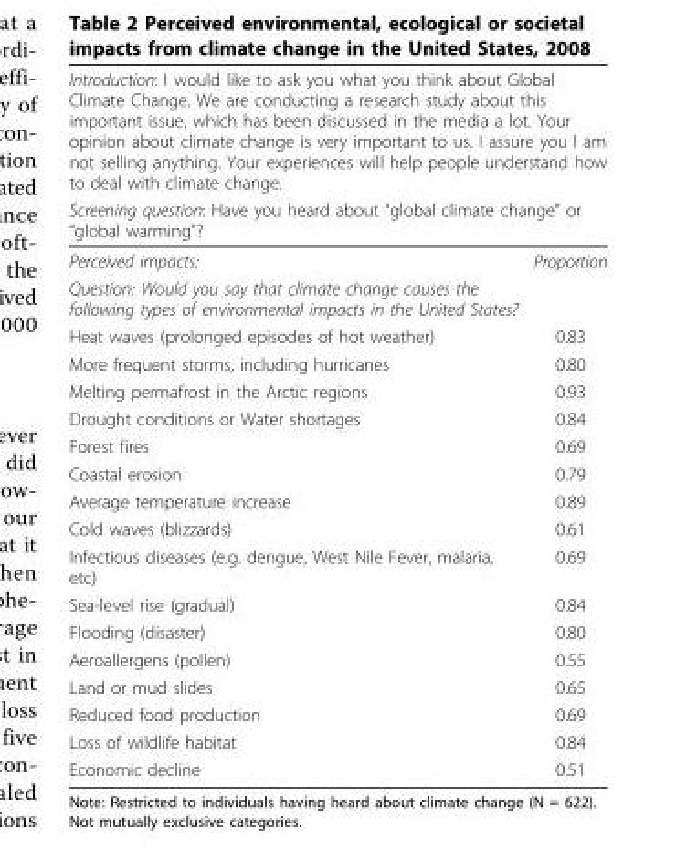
<table><thead><tr><td rowspan="2" colspan="2">Introduction: I would like to ask you what you think about Global Climate Change. We are conducting a research study about this important issue, which has been discussed in the media a lot. Your opinion about climate change is very important to us. I assure you I am not selling anything. Your experiences will help people understand how to deal with climate change. Screening question: Have you heard about “global climate change” or “global warming&quot;?</td></tr><tr></tr><tr><td>Perceived impacts:</td><td>Proportion</td></tr></thead><tbody><tr><td colspan="2">Question: Would you say that climate change causes the following types of environmental impacts in the United States?</td></tr><tr><td>Heat waves (prolonged episodes of hot weather)</td><td>0.83</td></tr><tr><td>More frequent storms, including hurricanes</td><td>0.80</td></tr><tr><td>Melting permafrost in the Arctic regions</td><td>0.93</td></tr><tr><td>Drought conditions or Water shortages</td><td>0.84</td></tr><tr><td>Forest fires</td><td>0.69</td></tr><tr><td>Coastal erosion</td><td>0.79</td></tr><tr><td>Average temperature increase</td><td>0.89</td></tr><tr><td>Cold waves (blizzards)</td><td>0.61</td></tr><tr><td>Infectious diseases (e.g. dengue, West Nile Fever, malaria, etc)</td><td>0.69</td></tr><tr><td>Sea-level rise (gradual)</td><td>0.84</td></tr><tr><td>Flooding (disaster)</td><td>0.80</td></tr><tr><td>Aeroallergens (pollen)</td><td>0.55</td></tr><tr><td>Land or mud slides</td><td>0.65</td></tr><tr><td>Reduced food production</td><td>0.69</td></tr><tr><td>Loss of wildlife habitat</td><td>0.84</td></tr><tr><td>Economic decline</td><td>0.51</td></tr></tbody></table>